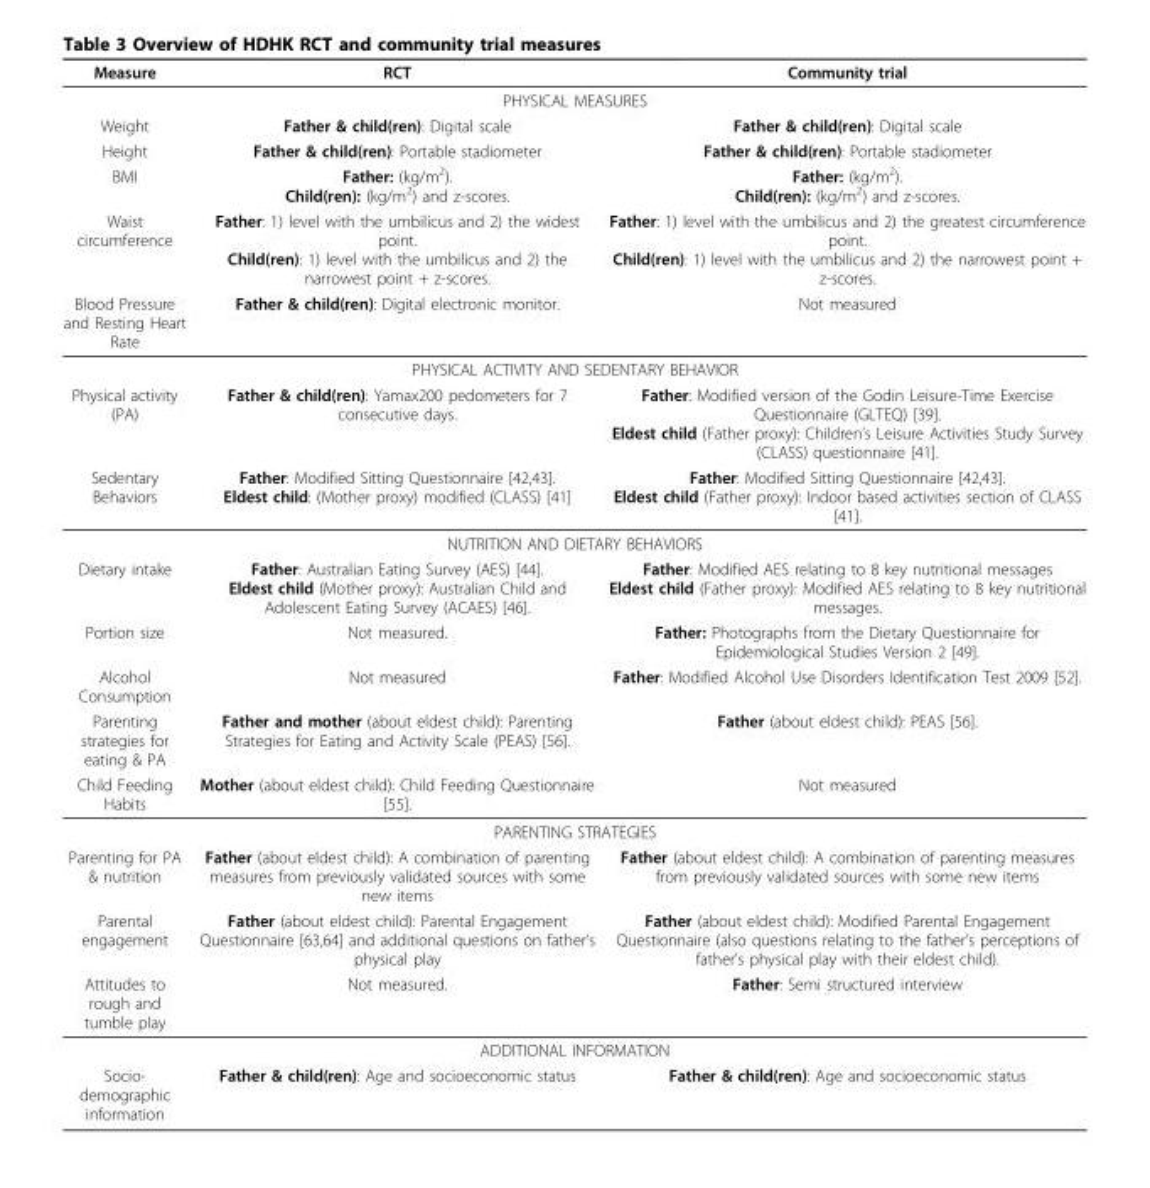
<table><thead><tr><td>Measure</td><td>RCT</td><td>Community trial</td></tr></thead><tbody><tr><td colspan="3">PHYSICAL MEASURES</td></tr><tr><td>Weight</td><td>Father &amp; child(ren): Digital scale</td><td>Father &amp; child(ren): Digital scale</td></tr><tr><td>Height</td><td>Father &amp; child(ren): Portable stadiometer</td><td>Father &amp; child(ren): Portable stadiometer</td></tr><tr><td>BMI</td><td>Father: (kg/m<sup>2</sup>). Child(ren): (kg/m<sup>2</sup>) and z-scores.</td><td>Father: (kg/m<sup>2</sup>). Child(ren): (kg/m<sup>2</sup>) and z-scores.</td></tr><tr><td>Waist circumference</td><td>Father: 1) level with the umbilicus and 2) the widest point. Child(ren): 1) level with the umbilicus and 2) the narrowest point + z-scores.</td><td>Father: 1) level with the umbilicus and 2) the greatest circumference point. Child(ren): 1) level with the umbilicus and 2) the narrowest point + z-scores.</td></tr><tr><td>Blood Pressure and Resting Heart Rate</td><td>Father &amp; child(ren): Digital electronic monitor.</td><td>Not measured</td></tr><tr><td colspan="3">PHYSICAL ACTIVITY AND SEDENTARY BEHAVIOR</td></tr><tr><td>Physical activity (PA)</td><td>Father &amp; child(ren): Yamax200 pedometers for 7 consecutive days.</td><td>Father: Modified version of the Godin Leisure-Time Exercise Questionnaire (GLTEQ) [39]. Eldest child (Father proxy): Children’s Leisure Activities Study Survey (CLASS) questionnaire [41].</td></tr><tr><td>Sedentary Behaviors</td><td>Father: Modified Sitting Questionnaire [42,43]. Eldest child: (Mother proxy) modified (CLASS) [41]</td><td>Father: Modified Sitting Questionnaire [42,43]. Eldest child (Father proxy): Indoor based activities section of CLASS [41].</td></tr><tr><td colspan="3">NUTRITION AND DIETARY BEHAVIORS</td></tr><tr><td>Dietary intake</td><td>Father: Australian Eating Survey (AES) [44]. Eldest child (Mother proxy): Australian Child and Adolescent Eating Survey (ACAES) [46].</td><td>Father: Modified AES relating to 8 key nutritional messages Eldest child (Father proxy): Modified AES relating to 8 key nutritional messages.</td></tr><tr><td>Portion size</td><td>Not measured.</td><td>Father: Photographs from the Dietary Questionnaire for Epidemiological Studies Version 2 [49].</td></tr><tr><td>Alcohol Consumption</td><td>Not measured</td><td>Father: Modified Alcohol Use Disorders Identification Test 2009 [52].</td></tr><tr><td>Parenting strategies for eating &amp; PA</td><td>Father and mother (about eldest child): Parenting Strategies for Eating and Activity Scale (PEAS) [56].</td><td>Father (about eldest child): PEAS [56].</td></tr><tr><td>Child Feeding Habits</td><td>Mother (about eldest child): Child Feeding Questionnaire [55].</td><td>Not measured</td></tr><tr><td colspan="3">PARENTING STRATEGIES</td></tr><tr><td>Parenting for PA &amp; nutrition</td><td>Father (about eldest child): A combination of parenting measures from previously validated sources with some new items</td><td>Father (about eldest child): A combination of parenting measures from previously validated sources with some new items</td></tr><tr><td>Parental engagement</td><td>Father (about eldest child): Parental Engagement Questionnaire [63,64] and additional questions on father’s physical play</td><td>Father (about eldest child): Modified Parental Engagement Questionnaire (also questions relating to the father’s perceptions of father’s physical play with their eldest child).</td></tr><tr><td>Attitudes to rough and tumble play</td><td>Not measured.</td><td>Father: Semi structured interview</td></tr><tr><td colspan="3">ADDITIONAL INFORMATION</td></tr><tr><td>Socio- demographic information</td><td>Father &amp; child(ren): Age and socioeconomic status</td><td>Father &amp; child(ren): Age and socioeconomic status</td></tr></tbody></table>